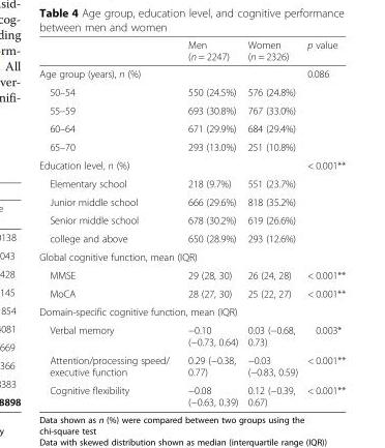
<table><thead><tr><td></td><td>Men (n = 2247)</td><td>Women (n = 2326)</td><td>p value</td></tr></thead><tbody><tr><td>Age group (years), n (%)</td><td></td><td></td><td>0.086</td></tr><tr><td>50–54</td><td>550 (24.5%)</td><td>576 (24.8%)</td><td></td></tr><tr><td>55–59</td><td>693 (30.8%)</td><td>767 (33.0%)</td><td></td></tr><tr><td>60–64</td><td>671 (29.9%)</td><td>684 (29.4%)</td><td></td></tr><tr><td>65–70</td><td>293 (13.0%)</td><td>251 (10.8%)</td><td></td></tr><tr><td>Education level, n (%)</td><td></td><td></td><td>&lt; 0.001**</td></tr><tr><td>Elementary school</td><td>218 (9.7%)</td><td>551 (23.7%)</td><td></td></tr><tr><td>Junior middle school</td><td>666 (29.6%)</td><td>818 (35.2%)</td><td></td></tr><tr><td>Senior middle school</td><td>678 (30.2%)</td><td>619 (26.6%)</td><td></td></tr><tr><td>college and above</td><td>650 (28.9%)</td><td>293 (12.6%)</td><td></td></tr><tr><td colspan="4">Global cognitive function, mean (IQR)</td></tr><tr><td>MMSE</td><td>29 (28, 30)</td><td>26 (24, 28)</td><td>&lt; 0.001**</td></tr><tr><td>MoCA</td><td>28 (27, 30)</td><td>25 (22, 27)</td><td>&lt; 0.001**</td></tr><tr><td colspan="4">Domain-specific cognitive function, mean (IQR)</td></tr><tr><td>Verbal memory</td><td>−0.10 (−0.73, 0.64)</td><td>0.03 (−0.68, 0.73)</td><td>0.003*</td></tr><tr><td>Attention/processing speed/ executive function</td><td>0.29 (−0.38, 0.77)</td><td>−0.03 (−0.83, 0.59)</td><td>&lt; 0.001**</td></tr><tr><td>Cognitive flexibility</td><td>−0.08 (−0.63, 0.39)</td><td>0.12 (−0.39, 0.67)</td><td>&lt; 0.001**</td></tr></tbody></table>